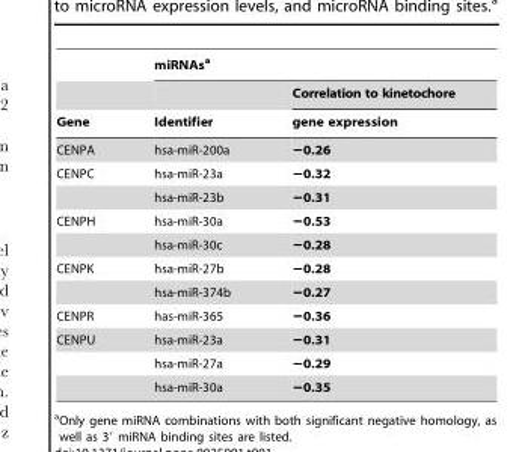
<table><thead><tr><td rowspan="3">Gene</td><td colspan="2">miRNAs<sup>a</sup></td></tr><tr><td rowspan="2">Identifier</td><td rowspan="2">Correlation to kinetochore gene expression</td></tr><tr></tr></thead><tbody><tr><td>CENPA</td><td>hsa-miR-200a</td><td>−0.26</td></tr><tr><td rowspan="2">CENPC</td><td>hsa-miR-23a</td><td>−0.32</td></tr><tr><td>hsa-miR-23b</td><td>−0.31</td></tr><tr><td rowspan="2">CENPH</td><td>hsa-miR-30a</td><td>−0.53</td></tr><tr><td>hsa-miR-30c</td><td>−0.28</td></tr><tr><td rowspan="2">CENPK</td><td>hsa-miR-27b</td><td>−0.28</td></tr><tr><td>hsa-miR-374b</td><td>−0.27</td></tr><tr><td>CENPR</td><td>has-miR-365</td><td>−0.36</td></tr><tr><td rowspan="3">CENPU</td><td>hsa-miR-23a</td><td>−0.31</td></tr><tr><td>hsa-miR-27a</td><td>−0.29</td></tr><tr><td>hsa-miR-30a</td><td>−0.35</td></tr></tbody></table>